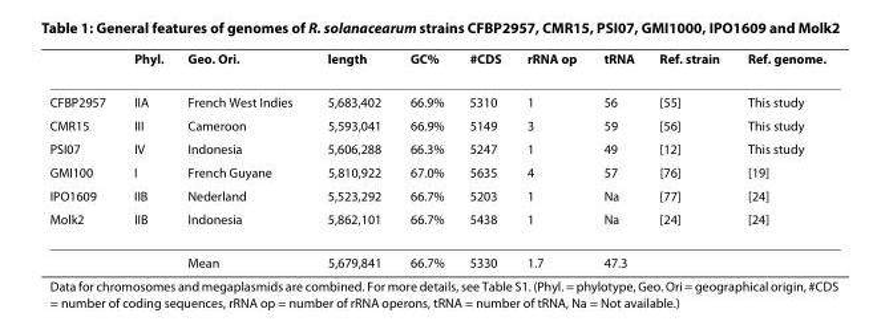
<table><thead><tr><td></td><td>Phyl.</td><td>Geo. Ori.</td><td>length</td><td>GC%</td><td>#CDS</td><td>rRNA op</td><td>tRNA</td><td>Ref. strain</td><td>Ref. genome.</td></tr></thead><tbody><tr><td>CFBP2957</td><td>IIA</td><td>French West Indies</td><td>5,683,402</td><td>66.9%</td><td>5310</td><td>1</td><td>56</td><td>[55]</td><td>This study</td></tr><tr><td>CMR15</td><td>III</td><td>Cameroon</td><td>5,593,041</td><td>66.9%</td><td>5149</td><td>3</td><td>59</td><td>[56]</td><td>This study</td></tr><tr><td>PSI07</td><td>IV</td><td>Indonesia</td><td>5,606,288</td><td>66.3%</td><td>5247</td><td>1</td><td>49</td><td>[12]</td><td>This study</td></tr><tr><td>GMI100</td><td>I</td><td>French Guyane</td><td>5,810,922</td><td>67.0%</td><td>5635</td><td>4</td><td>57</td><td>[76]</td><td>[19]</td></tr><tr><td>IPO1609</td><td>IIB</td><td>Nederland</td><td>5,523,292</td><td>66.7%</td><td>5203</td><td>1</td><td>Na</td><td>[77]</td><td>[24]</td></tr><tr><td rowspan="2">Molk2</td><td>IIB</td><td>Indonesia</td><td>5,862,101</td><td>66.7%</td><td>5438</td><td>1</td><td>Na</td><td>[24]</td><td>[24]</td></tr><tr><td></td><td>Mean</td><td>5,679,841</td><td>66.7%</td><td>5330</td><td>1.7</td><td>47.3</td><td></td><td></td></tr></tbody></table>